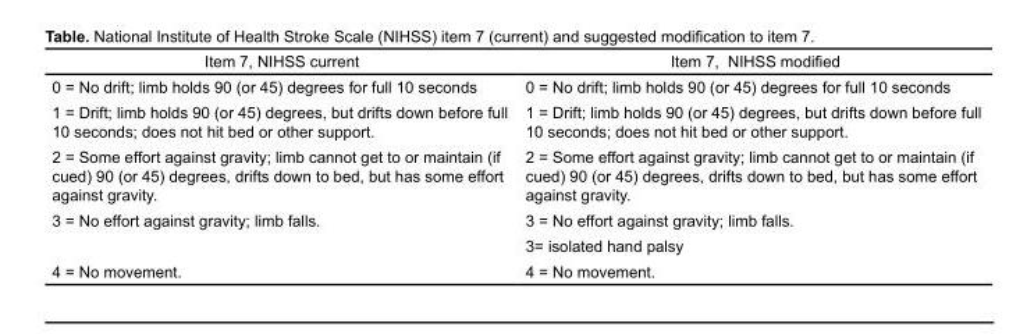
<table><thead><tr><td>Item 7, NIHSS current</td><td>Item 7, NIHSS modified</td></tr></thead><tbody><tr><td>0 = No drift; limb holds 90 (or 45) degrees for full 10 seconds</td><td>0 = No drift; limb holds 90 (or 45) degrees for full 10 seconds</td></tr><tr><td>1 = Drift; limb holds 90 (or 45) degrees, but drifts down before full 10 seconds; does not hit bed or other support.</td><td>1 = Drift; limb holds 90 (or 45) degrees, but drifts down before full 10 seconds; does not hit bed or other support.</td></tr><tr><td>2 = Some effort against gravity; limb cannot get to or maintain (if cued) 90 (or 45) degrees, drifts down to bed, but has some effort against gravity.</td><td>2 = Some effort against gravity; limb cannot get to or maintain (if cued) 90 (or 45) degrees, drifts down to bed, but has some effort against gravity.</td></tr><tr><td rowspan="2">3 = No effort against gravity; limb falls.</td><td>3 = No effort against gravity; limb falls.</td></tr><tr><td>3= isolated hand palsy</td></tr><tr><td>4 = No movement.</td><td>4 = No movement.</td></tr></tbody></table>